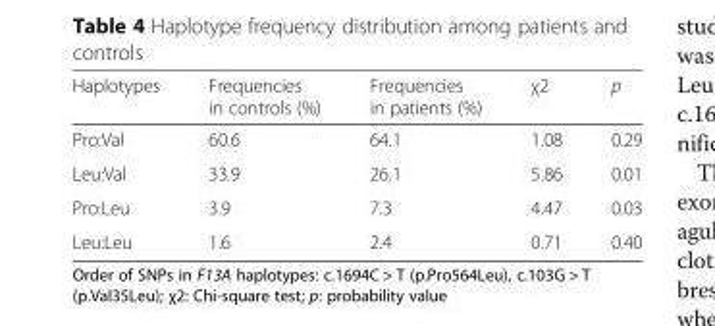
<table><thead><tr><td>Haplotypes</td><td>Frequencies in controls (%)</td><td>Frequencies in patients (%)</td><td>χ2</td><td>p</td></tr></thead><tbody><tr><td>Pro:Val</td><td>60.6</td><td>64.1</td><td>1.08</td><td>0.29</td></tr><tr><td>Leu:Val</td><td>33.9</td><td>26.1</td><td>5.86</td><td>0.01</td></tr><tr><td>Pro:Leu</td><td>3.9</td><td>7.3</td><td>4.47</td><td>0.03</td></tr><tr><td>Leu:Leu</td><td>1.6</td><td>2.4</td><td>0.71</td><td>0.40</td></tr></tbody></table>